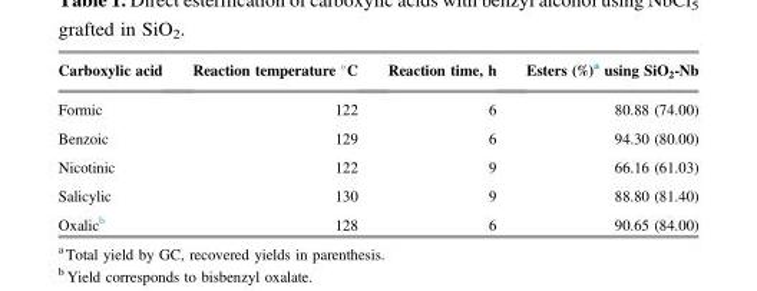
<table><thead><tr><td>Carboxylic acid</td><td>Reaction temperature °C</td><td>Reaction time, h</td><td>Esters (%)<sup>a</sup> using SiO<sub>2</sub>-Nb</td></tr></thead><tbody><tr><td>Formic</td><td>122</td><td>6</td><td>80.88 (74.00)</td></tr><tr><td>Benzoic</td><td>129</td><td>6</td><td>94.30 (80.00)</td></tr><tr><td>Nicotinic</td><td>122</td><td>9</td><td>66.16 (61.03)</td></tr><tr><td>Salicylic</td><td>130</td><td>9</td><td>88.80 (81.40)</td></tr><tr><td>Oxalic<sup>b</sup></td><td>128</td><td>6</td><td>90.65 (84.00)</td></tr></tbody></table>